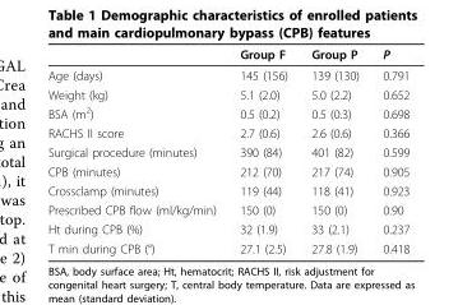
<table><thead><tr><td></td><td>Group F</td><td>Group P</td><td>P</td></tr></thead><tbody><tr><td>Age (days)</td><td>145 (156)</td><td>139 (130)</td><td>0.791</td></tr><tr><td>Weight (kg)</td><td>5.1 (2.0)</td><td>5.0 (2.2)</td><td>0.652</td></tr><tr><td>BSA (m<sup>2</sup>)</td><td>0.5 (0.2)</td><td>0.5 (0.3)</td><td>0.698</td></tr><tr><td>RACHS II score</td><td>2.7 (0.6)</td><td>2.6 (0.6)</td><td>0.366</td></tr><tr><td>Surgical procedure (minutes)</td><td>390 (84)</td><td>401 (82)</td><td>0.599</td></tr><tr><td>CPB (minutes)</td><td>212 (70)</td><td>217 (74)</td><td>0.905</td></tr><tr><td>Crossclamp (minutes)</td><td>119 (44)</td><td>118 (41)</td><td>0.923</td></tr><tr><td>Prescribed CPB flow (ml/kg/min)</td><td>150 (0)</td><td>150 (0)</td><td>0.90</td></tr><tr><td>Ht during CPB (%)</td><td>32 (1.9)</td><td>33 (2.1)</td><td>0.237</td></tr><tr><td>T min during CPB (°)</td><td>27.1 (2.5)</td><td>27.8 (1.9)</td><td>0.418</td></tr></tbody></table>